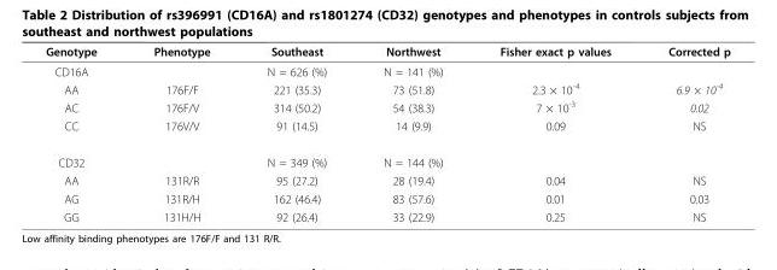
<table><thead><tr><td>Genotype</td><td>Phenotype</td><td>Southeast</td><td>Northwest</td><td>Fisher exact p values</td><td>Corrected p</td></tr></thead><tbody><tr><td>CD16A</td><td></td><td>N = 626 (%)</td><td>N = 141 (%)</td><td></td><td></td></tr><tr><td>AA</td><td>176F/F</td><td>221 (35.3)</td><td>73 (51.8)</td><td>2.3 × 10<sup>-4</sup></td><td>6.9 × 10<sup>-4</sup></td></tr><tr><td>AC</td><td>176F/V</td><td>314 (50.2)</td><td>54 (38.3)</td><td>7 × 10<sup>-3</sup></td><td>0.02</td></tr><tr><td>CC</td><td>176V/V</td><td>91 (14.5)</td><td>14 (9.9)</td><td>0.09</td><td>NS</td></tr><tr><td>CD32</td><td></td><td>N = 349 (%)</td><td>N = 144 (%)</td><td></td><td></td></tr><tr><td>AA</td><td>131R/R</td><td>95 (27.2)</td><td>28 (19.4)</td><td>0.04</td><td>NS</td></tr><tr><td>AG</td><td>131R/H</td><td>162 (46.4)</td><td>83 (57.6)</td><td>0.01</td><td>0.03</td></tr><tr><td>GG</td><td>131H/H</td><td>92 (26.4)</td><td>33 (22.9)</td><td>0.25</td><td>NS</td></tr></tbody></table>